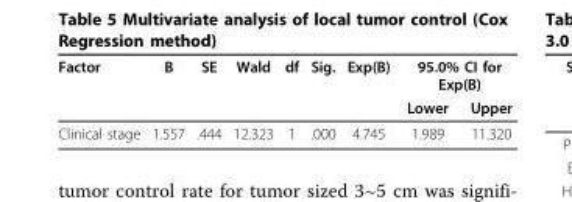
<table><thead><tr><td rowspan="2">Factor</td><td rowspan="2">B</td><td rowspan="2">SE</td><td rowspan="2">Wald</td><td rowspan="2">df</td><td rowspan="2">Sig.</td><td rowspan="2">Exp(B)</td><td colspan="2">95.0% CI for Exp(B)</td></tr><tr><td>Lower</td><td>Upper</td></tr></thead><tbody><tr><td>Clinical stage</td><td>1.557</td><td>.444</td><td>12.323</td><td>1</td><td>.000</td><td>4.745</td><td>1.989</td><td>11.320</td></tr></tbody></table>